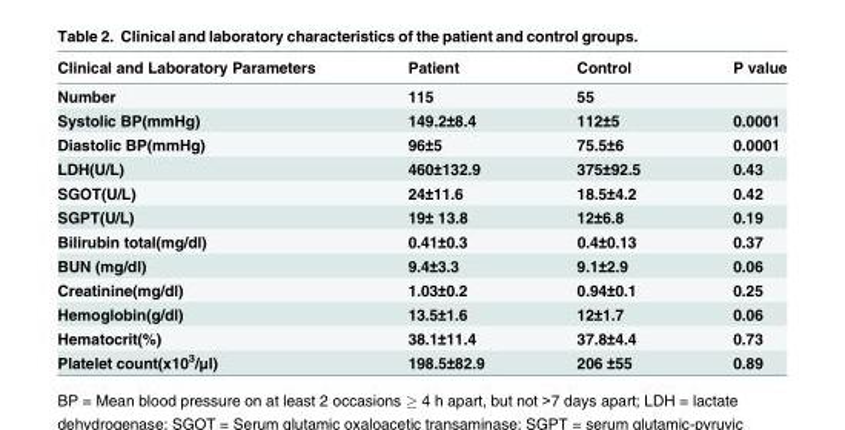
<table><thead><tr><td>Clinical and Laboratory Parameters</td><td>Patient</td><td>Control</td><td>P value</td></tr></thead><tbody><tr><td>Number</td><td>115</td><td>55</td><td></td></tr><tr><td>Systolic BP(mmHg)</td><td>149.2±8.4</td><td>112±5</td><td>0.0001</td></tr><tr><td>Diastolic BP(mmHg)</td><td>96±5</td><td>75.5±6</td><td>0.0001</td></tr><tr><td>LDH(U/L)</td><td>460±132.9</td><td>375±92.5</td><td>0.43</td></tr><tr><td>SGOT(U/L)</td><td>24±11.6</td><td>18.5±4.2</td><td>0.42</td></tr><tr><td>SGPT(U/L)</td><td>19± 13.8</td><td>12±6.8</td><td>0.19</td></tr><tr><td>Bilirubin total(mg/dl)</td><td>0.41±0.3</td><td>0.4±0.13</td><td>0.37</td></tr><tr><td>BUN (mg/dl)</td><td>9.4±3.3</td><td>9.1±2.9</td><td>0.06</td></tr><tr><td>Creatinine(mg/dl)</td><td>1.03±0.2</td><td>0.94±0.1</td><td>0.25</td></tr><tr><td>Hemoglobin(g/dl)</td><td>13.5±1.6</td><td>12±1.7</td><td>0.06</td></tr><tr><td>Hematocrit(%)</td><td>38.1±11.4</td><td>37.8±4.4</td><td>0.73</td></tr><tr><td>Platelet count(x10<sup>3</sup>/μl)</td><td>198.5±82.9</td><td>206 ±55</td><td>0.89</td></tr></tbody></table>